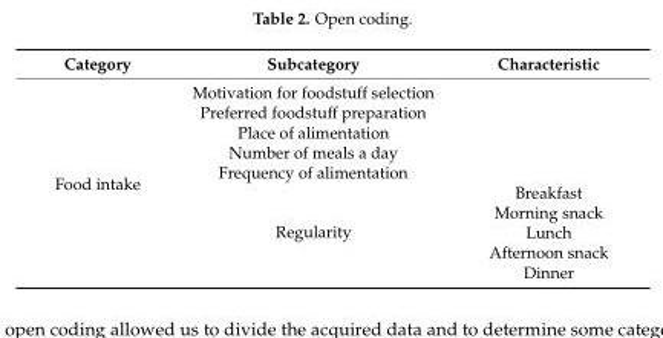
<table><thead><tr><td>Category</td><td>Subcategory</td><td>Characteristic</td></tr></thead><tbody><tr><td rowspan="10">Food intake</td><td>Motivation for foodstuff selection</td><td rowspan="5"></td></tr><tr><td>Preferred foodstuff preparation</td></tr><tr><td>Place of alimentation</td></tr><tr><td>Number of meals a day</td></tr><tr><td>Frequency of alimentation</td></tr><tr><td rowspan="5">Regularity</td><td>Breakfast</td></tr><tr><td>Morning snack</td></tr><tr><td>Lunch</td></tr><tr><td>Afternoon snack</td></tr><tr><td>Dinner</td></tr></tbody></table>